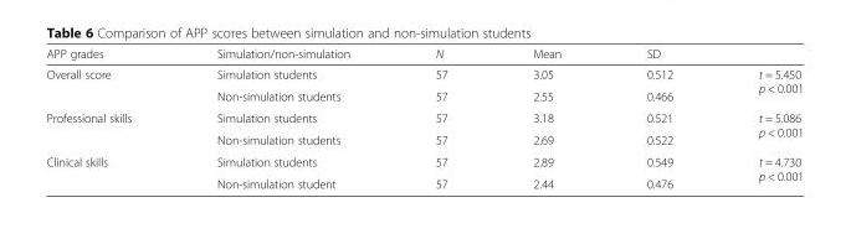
<table><thead><tr><td>APP grades</td><td>Simulation/non-simulation</td><td>N</td><td>Mean</td><td>SD</td><td></td></tr></thead><tbody><tr><td rowspan="2">Overall score</td><td>Simulation students</td><td>57</td><td>3.05</td><td>0.512</td><td rowspan="2">t = 5.450 p &lt; 0.001</td></tr><tr><td>Non-simulation students</td><td>57</td><td>2.55</td><td>0.466</td></tr><tr><td rowspan="2">Professional skills</td><td>Simulation students</td><td>57</td><td>3.18</td><td>0.521</td><td rowspan="2">t = 5.086 p &lt; 0.001</td></tr><tr><td>Non-simulation students</td><td>57</td><td>2.69</td><td>0.522</td></tr><tr><td rowspan="2">Clinical skills</td><td>Simulation students</td><td>57</td><td>2.89</td><td>0.549</td><td rowspan="2">t = 4.730 p &lt; 0.001</td></tr><tr><td>Non-simulation student</td><td>57</td><td>2.44</td><td>0.476</td></tr></tbody></table>